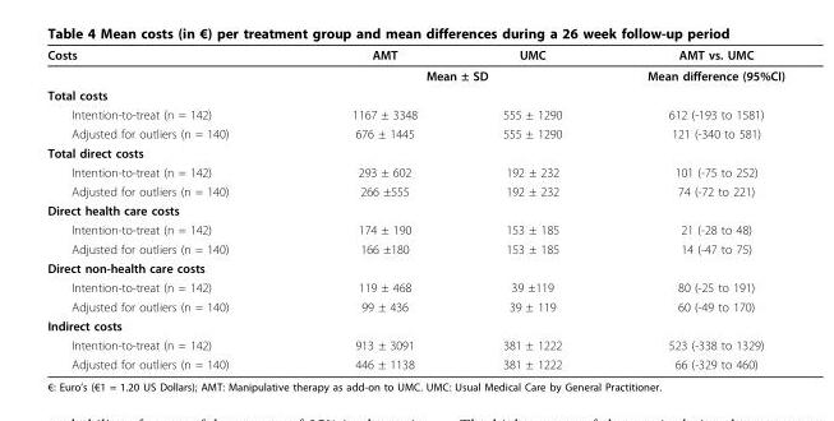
<table><thead><tr><td>Costs</td><td>AMT</td><td>UMC</td><td>AMT vs. UMC</td></tr></thead><tbody><tr><td></td><td colspan="2">Mean ± SD</td><td>Mean difference (95%CI)</td></tr><tr><td colspan="4">Total costs</td></tr><tr><td>Intention-to-treat (n = 142)</td><td>1167 ± 3348</td><td>555 ± 1290</td><td>612 (-193 to 1581)</td></tr><tr><td>Adjusted for outliers (n = 140)</td><td>676 ± 1445</td><td>555 ± 1290</td><td>121 (-340 to 581)</td></tr><tr><td colspan="4">Total direct costs</td></tr><tr><td>Intention-to-treat (n = 142)</td><td>293 ± 602</td><td>192 ± 232</td><td>101 (-75 to 252)</td></tr><tr><td>Adjusted for outliers (n = 140)</td><td>266 ±555</td><td>192 ± 232</td><td>74 (-72 to 221)</td></tr><tr><td colspan="4">Direct health care costs</td></tr><tr><td>Intention-to-treat (n = 142)</td><td>174 ± 190</td><td>153 ± 185</td><td>21 (-28 to 48)</td></tr><tr><td>Adjusted for outliers (n = 140)</td><td>166 ±180</td><td>153 ± 185</td><td>14 (-47 to 75)</td></tr><tr><td colspan="4">Direct non-health care costs</td></tr><tr><td>Intention-to-treat (n = 142)</td><td>119 ± 468</td><td>39 ±119</td><td>80 (-25 to 191)</td></tr><tr><td>Adjusted for outliers (n = 140)</td><td>99 ± 436</td><td>39 ± 119</td><td>60 (-49 to 170)</td></tr><tr><td colspan="4">Indirect costs</td></tr><tr><td>Intention-to-treat (n = 142)</td><td>913 ± 3091</td><td>381 ± 1222</td><td>523 (-338 to 1329)</td></tr><tr><td>Adjusted for outliers (n = 140)</td><td>446 ± 1138</td><td>381 ± 1222</td><td>66 (-329 to 460)</td></tr></tbody></table>